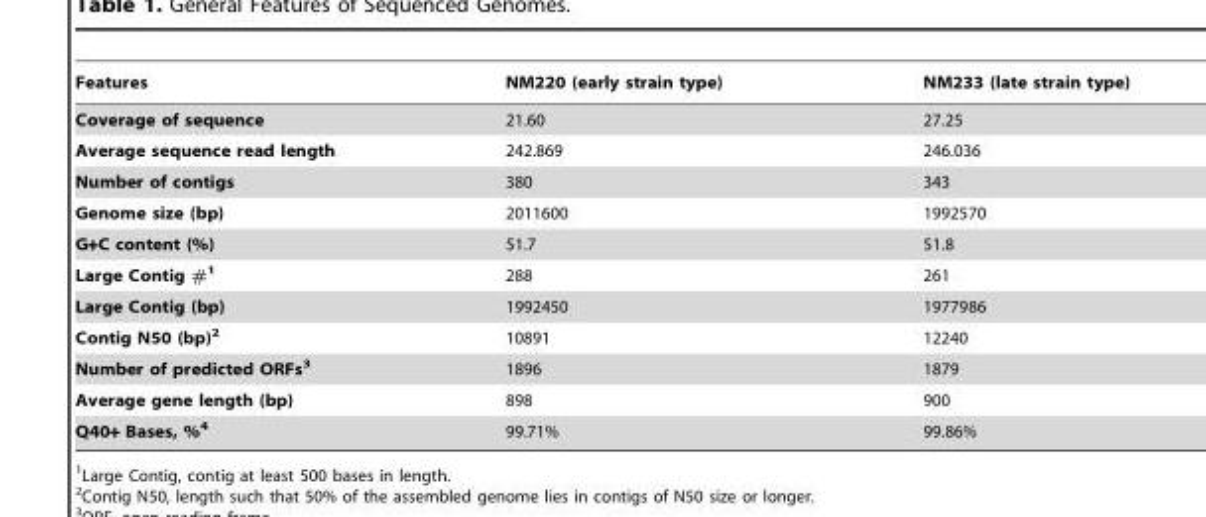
<table><thead><tr><td>Features</td><td>NM220 (early strain type)</td><td>NM233 (late strain type)</td></tr></thead><tbody><tr><td>Coverage of sequence</td><td>21.60</td><td>27.25</td></tr><tr><td>Average sequence read length</td><td>242.869</td><td>246.036</td></tr><tr><td>Number of contigs</td><td>380</td><td>343</td></tr><tr><td>Genome size (bp)</td><td>2011600</td><td>1992570</td></tr><tr><td>G+C content (%)</td><td>51.7</td><td>51.8</td></tr><tr><td>Large Contig #1</td><td>288</td><td>261</td></tr><tr><td>Large Contig (bp)</td><td>1992450</td><td>1977986</td></tr><tr><td>Contig N50 (bp)2</td><td>10891</td><td>12240</td></tr><tr><td>Number of predicted ORFs3</td><td>1896</td><td>1879</td></tr><tr><td>Average gene length (bp)</td><td>898</td><td>900</td></tr><tr><td>Q40+ Bases, %4</td><td>99.71%</td><td>99.86%</td></tr></tbody></table>